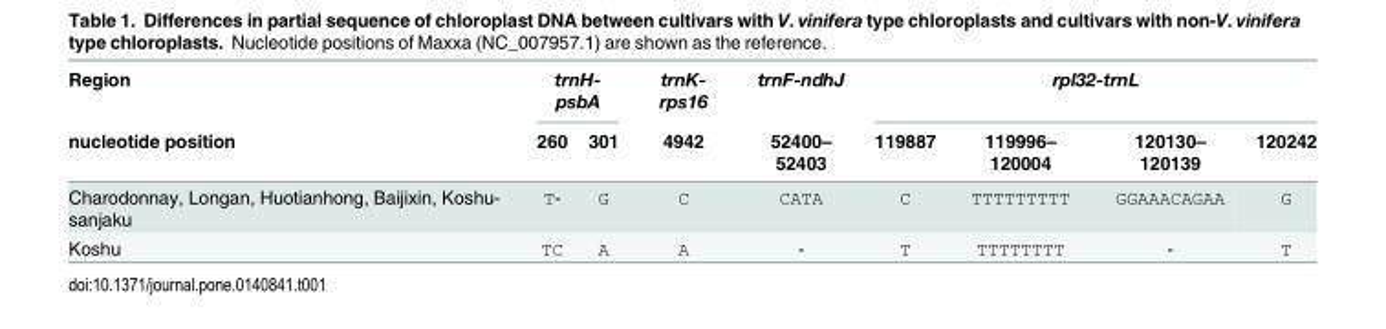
<table><thead><tr><td rowspan="2">Region nucleotide position</td><td colspan="2">trnH- psbA</td><td rowspan="2">trnK- rps16 4942</td><td rowspan="2">trnF-ndhJ 52400– 52403</td><td colspan="4">rpl32-trnL</td></tr><tr><td>260</td><td>301</td><td>119887</td><td>119996– 120004</td><td>120130– 120139</td><td>120242</td></tr></thead><tbody><tr><td>Charodonnay, Longan, Huotianhong, Baijixin, Koshu- sanjaku</td><td>T-</td><td>G</td><td>C</td><td>CATA</td><td>C</td><td>TTTTTTTTT</td><td>GGAAACAGAA</td><td>G</td></tr><tr><td>Koshu</td><td>TC</td><td>A</td><td>A</td><td>-</td><td>T</td><td>TTTTTTTT</td><td>-</td><td>T</td></tr></tbody></table>